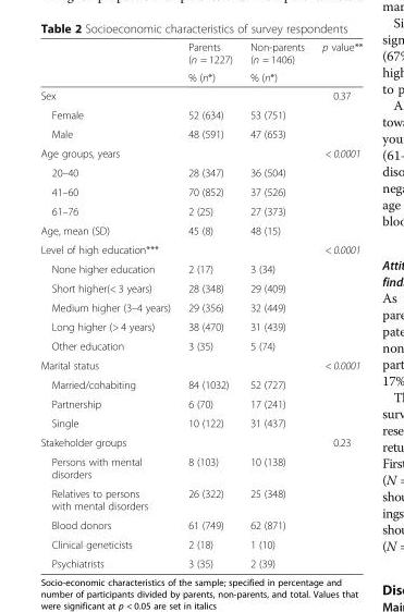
<table><thead><tr><td rowspan="2"></td><td rowspan="2">Parents (n = 1227) % (n*)</td><td rowspan="2">Non-parents (n = 1406) % (n*)</td><td rowspan="2">p value**</td></tr><tr></tr></thead><tbody><tr><td colspan="3">Sex</td><td>0.37</td></tr><tr><td>Female</td><td>52 (634)</td><td>53 (751)</td><td rowspan="2"></td></tr><tr><td>Male</td><td>48 (591)</td><td>47 (653)</td></tr><tr><td colspan="3">Age groups, years</td><td>&lt; 0.0001</td></tr><tr><td>20–40</td><td>28 (347)</td><td>36 (504)</td><td rowspan="3"></td></tr><tr><td>41–60</td><td>70 (852)</td><td>37 (526)</td></tr><tr><td>61–76</td><td>2 (25)</td><td>27 (373)</td></tr><tr><td>Age, mean (SD)</td><td>45 (8)</td><td>48 (15)</td><td></td></tr><tr><td colspan="3">Level of high education***</td><td>&lt; 0.0001</td></tr><tr><td>None higher education</td><td>2 (17)</td><td>3 (34)</td><td></td></tr><tr><td>Short higher(&lt; 3 years)</td><td>28 (348)</td><td>29 (409)</td><td rowspan="4"></td></tr><tr><td>Medium higher (3–4 years)</td><td>29 (356)</td><td>32 (449)</td></tr><tr><td>Long higher (&gt; 4 years)</td><td>38 (470)</td><td>31 (439)</td></tr><tr><td>Other education</td><td>3 (35)</td><td>5 (74)</td></tr><tr><td colspan="3">Marital status</td><td>&lt; 0.0001</td></tr><tr><td>Married/cohabiting</td><td>84 (1032)</td><td>52 (727)</td><td rowspan="3"></td></tr><tr><td>Partnership</td><td>6 (70)</td><td>17 (241)</td></tr><tr><td>Single</td><td>10 (122)</td><td>31 (437)</td></tr><tr><td>Stakeholder groups</td><td></td><td></td><td>0.23</td></tr><tr><td>Persons with mental disorders</td><td>8 (103)</td><td>10 (138)</td><td rowspan="5"></td></tr><tr><td>Relatives to persons with mental disorders</td><td>26 (322)</td><td>25 (348)</td></tr><tr><td>Blood donors</td><td>61 (749)</td><td>62 (871)</td></tr><tr><td>Clinical geneticists</td><td>2 (18)</td><td>1 (10)</td></tr><tr><td>Psychiatrists</td><td>3 (35)</td><td>2 (39)</td></tr></tbody></table>